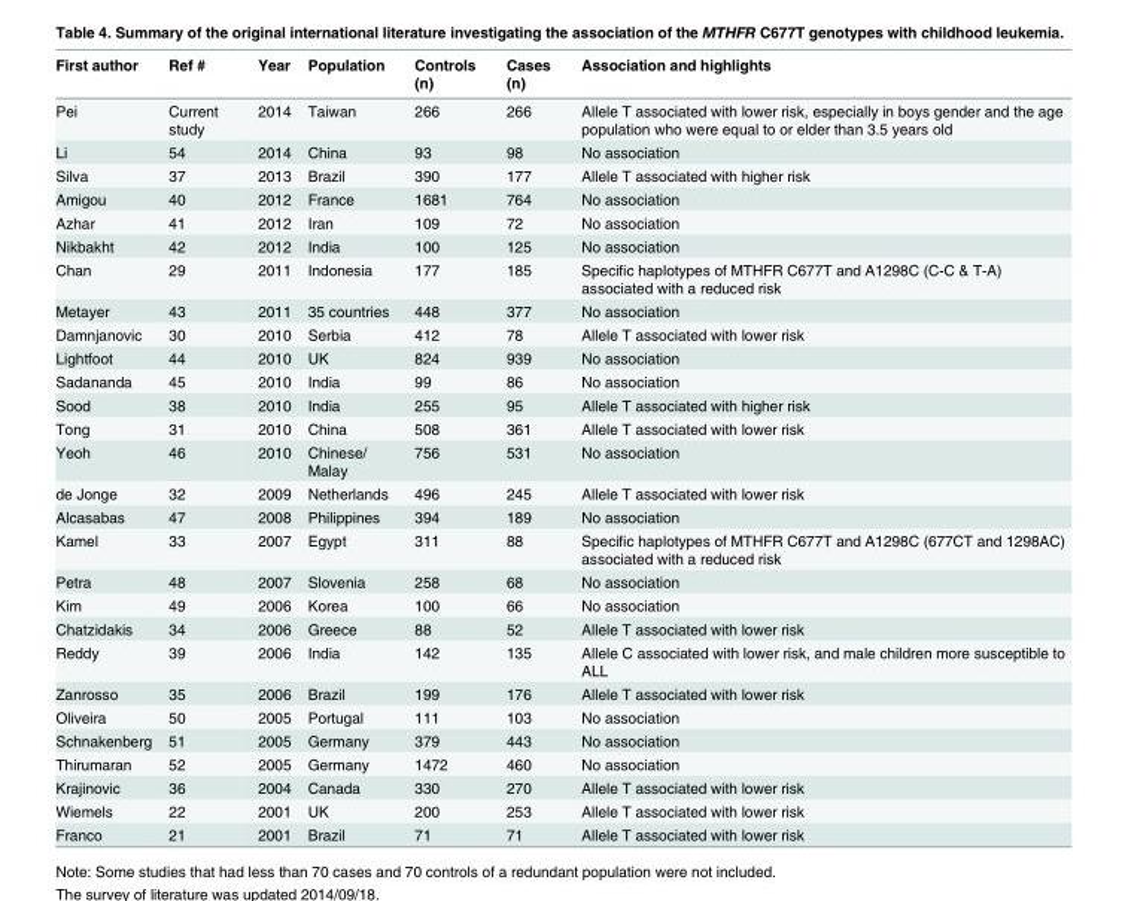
<table><thead><tr><td>First author</td><td>Ref #</td><td>Year</td><td>Population</td><td>Controls (n)</td><td>Cases (n)</td><td>Association and highlights</td></tr></thead><tbody><tr><td>Pei</td><td>Current study</td><td>2014</td><td>Taiwan</td><td>266</td><td>266</td><td>Allele T associated with lower risk, especially in boys gender and the age population who were equal to or elder than 3.5 years old</td></tr><tr><td>Li</td><td>54</td><td>2014</td><td>China</td><td>93</td><td>98</td><td>No association</td></tr><tr><td>Silva</td><td>37</td><td>2013</td><td>Brazil</td><td>390</td><td>177</td><td>Allele T associated with higher risk</td></tr><tr><td>Amigou</td><td>40</td><td>2012</td><td>France</td><td>1681</td><td>764</td><td>No association</td></tr><tr><td>Azhar</td><td>41</td><td>2012</td><td>Iran</td><td>109</td><td>72</td><td>No association</td></tr><tr><td>Nikbakht</td><td>42</td><td>2012</td><td>India</td><td>100</td><td>125</td><td>No association</td></tr><tr><td>Chan</td><td>29</td><td>2011</td><td>Indonesia</td><td>177</td><td>185</td><td>Specific haplotypes of MTHFR C677T and A1298C (C-C &amp; T-A) associated with a reduced risk</td></tr><tr><td>Metayer</td><td>43</td><td>2011</td><td>35 countries</td><td>448</td><td>377</td><td>No association</td></tr><tr><td>Damnjanovic</td><td>30</td><td>2010</td><td>Serbia</td><td>412</td><td>78</td><td>Allele T associated with lower risk</td></tr><tr><td>Lightfoot</td><td>44</td><td>2010</td><td>UK</td><td>824</td><td>939</td><td>No association</td></tr><tr><td>Sadananda</td><td>45</td><td>2010</td><td>India</td><td>99</td><td>86</td><td>No association</td></tr><tr><td>Sood</td><td>38</td><td>2010</td><td>India</td><td>255</td><td>95</td><td>Allele T associated with higher risk</td></tr><tr><td>Tong</td><td>31</td><td>2010</td><td>China</td><td>508</td><td>361</td><td>Allele T associated with lower risk</td></tr><tr><td>Yeoh</td><td>46</td><td>2010</td><td>Chinese/ Malay</td><td>756</td><td>531</td><td>No association</td></tr><tr><td>de Jonge</td><td>32</td><td>2009</td><td>Netherlands</td><td>496</td><td>245</td><td>Allele T associated with lower risk</td></tr><tr><td>Alcasabas</td><td>47</td><td>2008</td><td>Philippines</td><td>394</td><td>189</td><td>No association</td></tr><tr><td>Kamel</td><td>33</td><td>2007</td><td>Egypt</td><td>311</td><td>88</td><td>Specific haplotypes of MTHFR C677T and A1298C (677CT and 1298AC) associated with a reduced risk</td></tr><tr><td>Petra</td><td>48</td><td>2007</td><td>Slovenia</td><td>258</td><td>68</td><td>No association</td></tr><tr><td>Kim</td><td>49</td><td>2006</td><td>Korea</td><td>100</td><td>66</td><td>No association</td></tr><tr><td>Chatzidakis</td><td>34</td><td>2006</td><td>Greece</td><td>88</td><td>52</td><td>Allele T associated with lower risk</td></tr><tr><td>Reddy</td><td>39</td><td>2006</td><td>India</td><td>142</td><td>135</td><td>Allele C associated with lower risk, and male children more susceptible to ALL</td></tr><tr><td>Zanrosso</td><td>35</td><td>2006</td><td>Brazil</td><td>199</td><td>176</td><td>Allele T associated with lower risk</td></tr><tr><td>Oliveira</td><td>50</td><td>2005</td><td>Portugal</td><td>111</td><td>103</td><td>No association</td></tr><tr><td>Schnakenberg</td><td>51</td><td>2005</td><td>Germany</td><td>379</td><td>443</td><td>No association</td></tr><tr><td>Thirumaran</td><td>52</td><td>2005</td><td>Germany</td><td>1472</td><td>460</td><td>No association</td></tr><tr><td>Krajinovic</td><td>36</td><td>2004</td><td>Canada</td><td>330</td><td>270</td><td>Allele T associated with lower risk</td></tr><tr><td>Wiemels</td><td>22</td><td>2001</td><td>UK</td><td>200</td><td>253</td><td>Allele T associated with lower risk</td></tr><tr><td>Franco</td><td>21</td><td>2001</td><td>Brazil</td><td>71</td><td>71</td><td>Allele T associated with lower risk</td></tr></tbody></table>